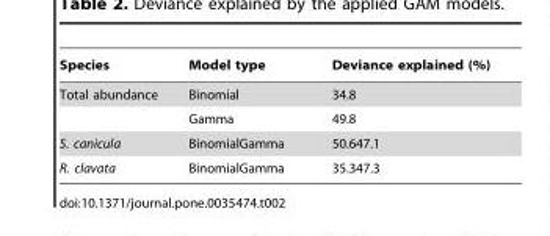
<table><thead><tr><td>Species</td><td>Model type</td><td>Deviance explained (%)</td></tr></thead><tbody><tr><td rowspan="2">Total abundance</td><td>Binomial</td><td>34.8</td></tr><tr><td>Gamma</td><td>49.8</td></tr><tr><td>S. canicula</td><td>BinomialGamma</td><td>50.647.1</td></tr><tr><td>R. clavata</td><td>BinomialGamma</td><td>35.347.3</td></tr></tbody></table>